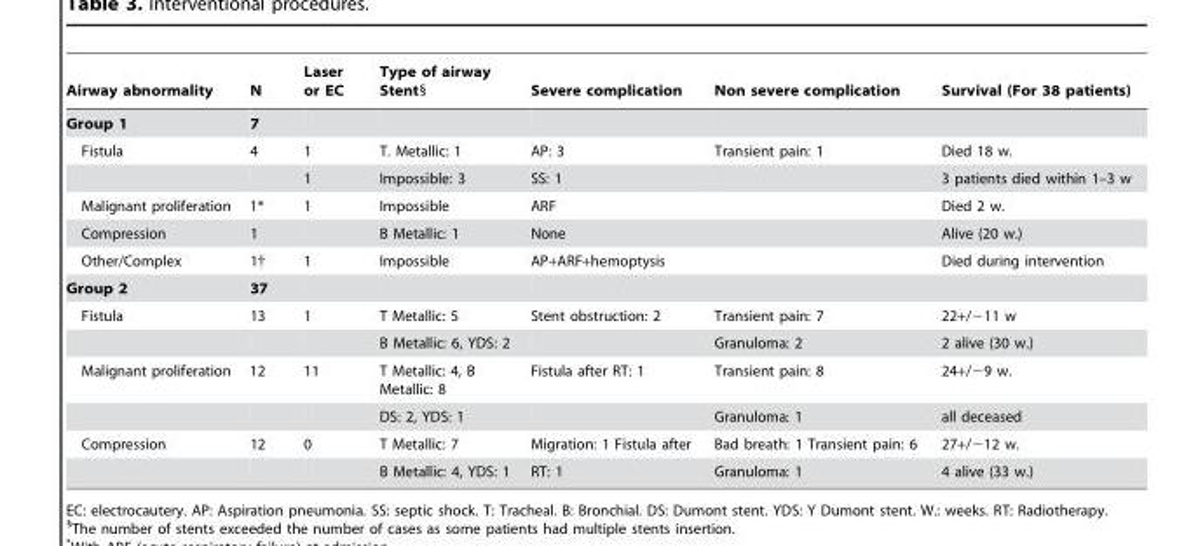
<table><thead><tr><td>Airway abnormality</td><td>N</td><td>Laser or EC</td><td>Type of airway Stent§</td><td>Severe complication</td><td>Non severe complication</td><td>Survival (For 38 patients)</td></tr></thead><tbody><tr><td>Group 1</td><td>7</td><td></td><td></td><td></td><td></td><td></td></tr><tr><td rowspan="2">Fistula</td><td>4</td><td>1</td><td>T. Metallic: 1</td><td>AP: 3</td><td>Transient pain: 1</td><td>Died 18 w.</td></tr><tr><td></td><td>1</td><td>Impossible: 3</td><td>SS: 1</td><td></td><td>3 patients died within 1–3 w</td></tr><tr><td>Malignant proliferation</td><td>1*</td><td>1</td><td>Impossible</td><td>ARF</td><td></td><td>Died 2 w.</td></tr><tr><td>Compression</td><td>1</td><td></td><td>B Metallic: 1</td><td>None</td><td></td><td>Alive (20 w.)</td></tr><tr><td>Other/Complex</td><td>1†</td><td>1</td><td>Impossible</td><td>AP+ARF+hemoptysis</td><td></td><td>Died during intervention</td></tr><tr><td>Group 2</td><td>37</td><td></td><td></td><td></td><td></td><td></td></tr><tr><td rowspan="2">Fistula</td><td>13</td><td>1</td><td>T Metallic: 5</td><td>Stent obstruction: 2</td><td>Transient pain: 7</td><td>22+/−11 w</td></tr><tr><td></td><td></td><td>B Metallic: 6, YDS: 2</td><td></td><td>Granuloma: 2</td><td>2 alive (30 w.)</td></tr><tr><td rowspan="2">Malignant proliferation</td><td>12</td><td>11</td><td>T Metallic: 4, B Metallic: 8</td><td>Fistula after RT: 1</td><td>Transient pain: 8</td><td>24+/−9 w.</td></tr><tr><td></td><td></td><td>DS: 2, YDS: 1</td><td></td><td>Granuloma: 1</td><td>all deceased</td></tr><tr><td rowspan="2">Compression</td><td>12</td><td>0</td><td>T Metallic: 7</td><td>Migration: 1 Fistula after</td><td>Bad breath: 1 Transient pain: 6</td><td>27+/−12 w.</td></tr><tr><td></td><td></td><td>B Metallic: 4, YDS: 1</td><td>RT: 1</td><td>Granuloma: 1</td><td>4 alive (33 w.)</td></tr></tbody></table>